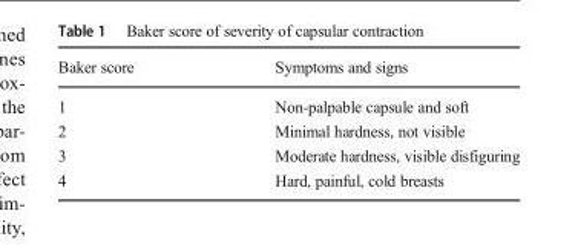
<table><thead><tr><td>Baker score</td><td>Symptoms and signs</td></tr></thead><tbody><tr><td>1</td><td>Non-palpable capsule and soft</td></tr><tr><td>2</td><td>Minimal hardness, not visible</td></tr><tr><td>3</td><td>Moderate hardness, visible disfiguring</td></tr><tr><td>4</td><td>Hard, painful, cold breasts</td></tr></tbody></table>